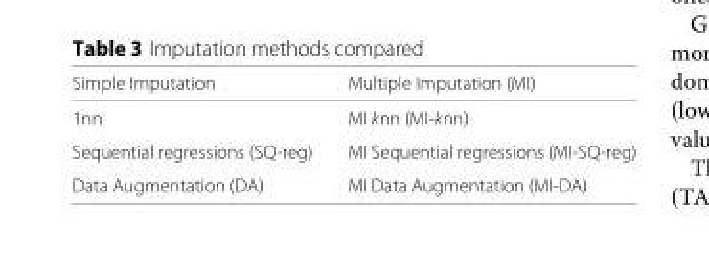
<table><thead><tr><td>Simple Imputation</td><td>Multiple Imputation (MI)</td></tr></thead><tbody><tr><td>1nn</td><td>MI knn (MI-knn)</td></tr><tr><td>Sequential regressions (SQ-reg)</td><td>MI Sequential regressions (MI-SQ-reg)</td></tr><tr><td>Data Augmentation (DA)</td><td>MI Data Augmentation (MI-DA)</td></tr></tbody></table>